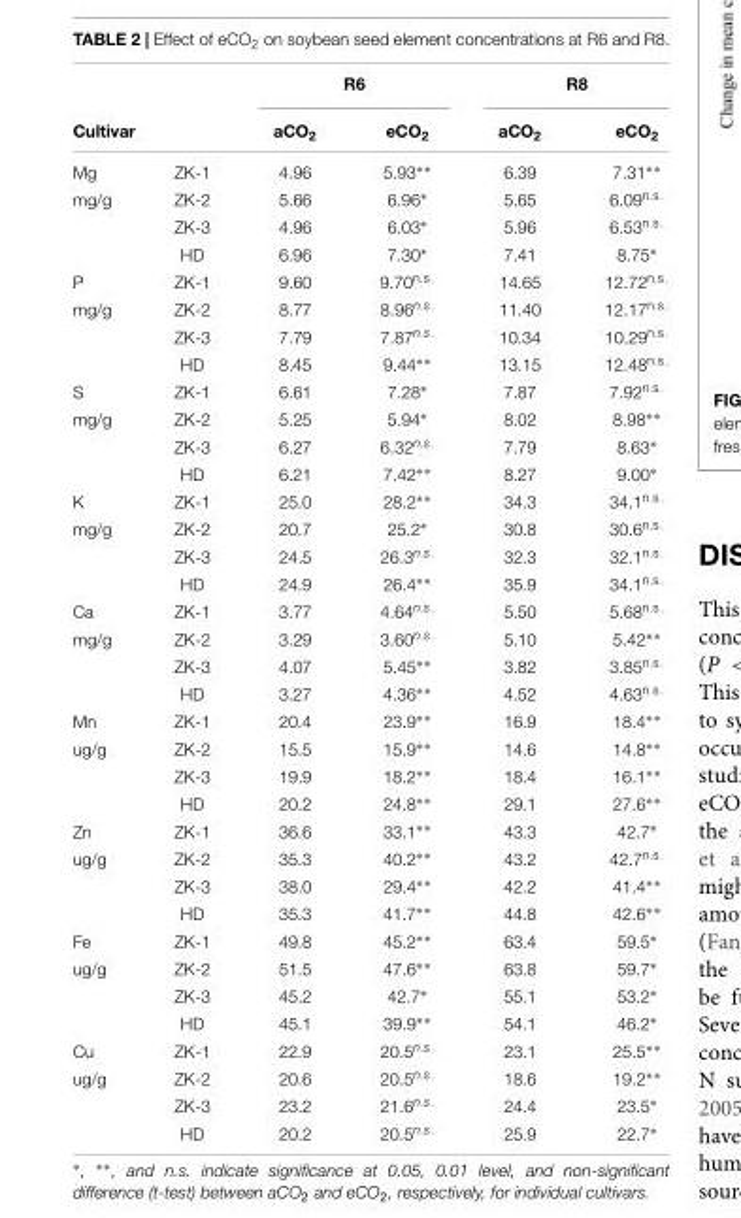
<table><thead><tr><td rowspan="2">Cultivar</td><td rowspan="2"></td><td colspan="2">R6</td><td colspan="2">R8</td></tr><tr><td>aCO<sub>2</sub></td><td>eCO<sub>2</sub></td><td>aCO<sub>2</sub></td><td>eCO<sub>2</sub></td></tr></thead><tbody><tr><td>Mg</td><td>ZK-1</td><td>4.96</td><td>5.93∗∗</td><td>6.39</td><td>7.31∗∗</td></tr><tr><td rowspan="3">mg/g</td><td>ZK-2</td><td>5.66</td><td>6.96∗</td><td>5.65</td><td>6.09<sup>n.s.</sup></td></tr><tr><td>ZK-3</td><td>4.96</td><td>6.03∗</td><td>5.96</td><td>6.53<sup>n.s.</sup></td></tr><tr><td>HD</td><td>6.96</td><td>7.30∗</td><td>7.41</td><td>8.75∗</td></tr><tr><td>P</td><td>ZK-1</td><td>9.60</td><td>9.70<sup>n.s.</sup></td><td>14.65</td><td>12.72<sup>n.s.</sup></td></tr><tr><td rowspan="3">mg/g</td><td>ZK-2</td><td>8.77</td><td>8.96<sup>n.s.</sup></td><td>11.40</td><td>12.17<sup>n.s.</sup></td></tr><tr><td>ZK-3</td><td>7.79</td><td>7.87<sup>n.s.</sup></td><td>10.34</td><td>10.29<sup>n.s.</sup></td></tr><tr><td>HD</td><td>8.45</td><td>9.44∗∗</td><td>13.15</td><td>12.48<sup>n.s.</sup></td></tr><tr><td>S</td><td>ZK-1</td><td>6.61</td><td>7.28∗</td><td>7.87</td><td>7.92<sup>n.s.</sup></td></tr><tr><td rowspan="3">mg/g</td><td>ZK-2</td><td>5.25</td><td>5.94∗</td><td>8.02</td><td>8.98∗∗</td></tr><tr><td>ZK-3</td><td>6.27</td><td>6.32<sup>n.s.</sup></td><td>7.79</td><td>8.63∗</td></tr><tr><td>HD</td><td>6.21</td><td>7.42∗∗</td><td>8.27</td><td>9.00∗</td></tr><tr><td>K</td><td>ZK-1</td><td>25.0</td><td>28.2∗∗</td><td>34.3</td><td>34.1<sup>n.s.</sup></td></tr><tr><td rowspan="3">mg/g</td><td>ZK-2</td><td>20.7</td><td>25.2∗</td><td>30.8</td><td>30.6<sup>n.s.</sup></td></tr><tr><td>ZK-3</td><td>24.5</td><td>26.3<sup>n.s.</sup></td><td>32.3</td><td>32.1<sup>n.s.</sup></td></tr><tr><td>HD</td><td>24.9</td><td>26.4∗∗</td><td>35.9</td><td>34.1<sup>n.s.</sup></td></tr><tr><td>Ca</td><td>ZK-1</td><td>3.77</td><td>4.64<sup>n.s.</sup></td><td>5.50</td><td>5.68<sup>n.s.</sup></td></tr><tr><td rowspan="3">mg/g</td><td>ZK-2</td><td>3.29</td><td>3.60<sup>n.s.</sup></td><td>5.10</td><td>5.42∗∗</td></tr><tr><td>ZK-3</td><td>4.07</td><td>5.45∗∗</td><td>3.82</td><td>3.85<sup>n.s.</sup></td></tr><tr><td>HD</td><td>3.27</td><td>4.36∗∗</td><td>4.52</td><td>4.63<sup>n.s.</sup></td></tr><tr><td>Mn</td><td>ZK-1</td><td>20.4</td><td>23.9∗∗</td><td>16.9</td><td>18.4∗∗</td></tr><tr><td rowspan="3">ug/g</td><td>ZK-2</td><td>15.5</td><td>15.9∗∗</td><td>14.6</td><td>14.8∗∗</td></tr><tr><td>ZK-3</td><td>19.9</td><td>18.2∗∗</td><td>18.4</td><td>16.1∗∗</td></tr><tr><td>HD</td><td>20.2</td><td>24.8∗∗</td><td>29.1</td><td>27.6∗∗</td></tr><tr><td>Zn</td><td>ZK-1</td><td>36.6</td><td>33.1∗∗</td><td>43.3</td><td>42.7∗</td></tr><tr><td rowspan="3">ug/g</td><td>ZK-2</td><td>35.3</td><td>40.2∗∗</td><td>43.2</td><td>42.7<sup>n.s.</sup></td></tr><tr><td>ZK-3</td><td>38.0</td><td>29.4∗∗</td><td>42.2</td><td>41.4∗∗</td></tr><tr><td>HD</td><td>35.3</td><td>41.7∗∗</td><td>44.8</td><td>42.6∗∗</td></tr><tr><td>Fe</td><td>ZK-1</td><td>49.8</td><td>45.2∗∗</td><td>63.4</td><td>59.5∗</td></tr><tr><td rowspan="3">ug/g</td><td>ZK-2</td><td>51.5</td><td>47.6∗∗</td><td>63.8</td><td>59.7∗</td></tr><tr><td>ZK-3</td><td>45.2</td><td>42.7∗</td><td>55.1</td><td>53.2∗</td></tr><tr><td>HD</td><td>45.1</td><td>39.9∗∗</td><td>54.1</td><td>46.2∗</td></tr><tr><td>Cu</td><td>ZK-1</td><td>22.9</td><td>20.5<sup>n.s.</sup></td><td>23.1</td><td>25.5∗∗</td></tr><tr><td rowspan="3">ug/g</td><td>ZK-2</td><td>20.6</td><td>20.5<sup>n.s.</sup></td><td>18.6</td><td>19.2∗∗</td></tr><tr><td>ZK-3</td><td>23.2</td><td>21.6<sup>n.s.</sup></td><td>24.4</td><td>23.5∗</td></tr><tr><td>HD</td><td>20.2</td><td>20.5<sup>n.s.</sup></td><td>25.9</td><td>22.7∗</td></tr></tbody></table>